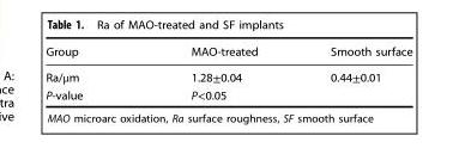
<table><thead><tr><td>Group</td><td>MAO-treated</td><td>Smooth surface</td></tr></thead><tbody><tr><td>Ra/μm</td><td>1.28±0.04</td><td>0.44±0.01</td></tr><tr><td>P-value</td><td>P&lt;0.05</td><td></td></tr></tbody></table>